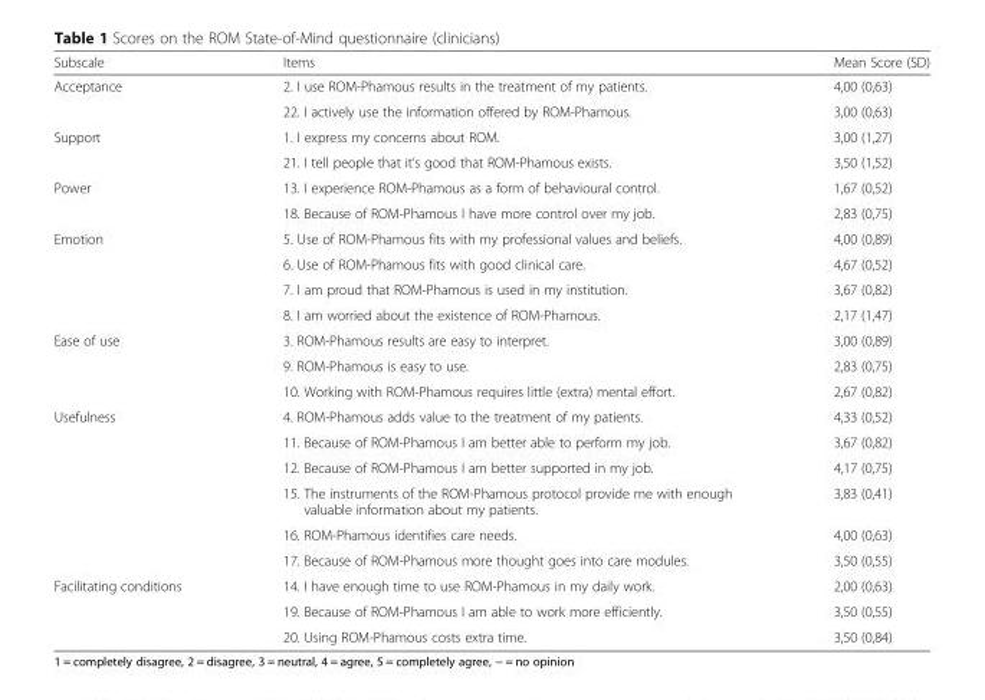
<table><thead><tr><td>Subscale</td><td>Items</td><td>Mean Score (SD)</td></tr></thead><tbody><tr><td rowspan="2">Acceptance</td><td>2. I use ROM-Phamous results in the treatment of my patients.</td><td>4,00 (0,63)</td></tr><tr><td>22. I actively use the information offered by ROM-Phamous.</td><td>3,00 (0,63)</td></tr><tr><td rowspan="2">Support</td><td>1. I express my concerns about ROM.</td><td>3,00 (1,27)</td></tr><tr><td>21. I tell people that it’s good that ROM-Phamous exists.</td><td>3,50 (1,52)</td></tr><tr><td rowspan="2">Power</td><td>13. I experience ROM-Phamous as a form of behavioural control.</td><td>1,67 (0,52)</td></tr><tr><td>18. Because of ROM-Phamous I have more control over my job.</td><td>2,83 (0,75)</td></tr><tr><td rowspan="4">Emotion</td><td>5. Use of ROM-Phamous fits with my professional values and beliefs.</td><td>4,00 (0,89)</td></tr><tr><td>6. Use of ROM-Phamous fits with good clinical care.</td><td>4,67 (0,52)</td></tr><tr><td>7. I am proud that ROM-Phamous is used in my institution.</td><td>3,67 (0,82)</td></tr><tr><td>8. I am worried about the existence of ROM-Phamous.</td><td>2,17 (1,47)</td></tr><tr><td rowspan="3">Ease of use</td><td>3. ROM-Phamous results are easy to interpret.</td><td>3,00 (0,89)</td></tr><tr><td>9. ROM-Phamous is easy to use.</td><td>2,83 (0,75)</td></tr><tr><td>10. Working with ROM-Phamous requires little (extra) mental effort.</td><td>2,67 (0,82)</td></tr><tr><td rowspan="6">Usefulness</td><td>4. ROM-Phamous adds value to the treatment of my patients.</td><td>4,33 (0,52)</td></tr><tr><td>11. Because of ROM-Phamous I am better able to perform my job.</td><td>3,67 (0,82)</td></tr><tr><td>12. Because of ROM-Phamous I am better supported in my job.</td><td>4,17 (0,75)</td></tr><tr><td>15. The instruments of the ROM-Phamous protocol provide me with enough valuable information about my patients.</td><td>3,83 (0,41)</td></tr><tr><td>16. ROM-Phamous identifies care needs.</td><td>4,00 (0,63)</td></tr><tr><td>17. Because of ROM-Phamous more thought goes into care modules.</td><td>3,50 (0,55)</td></tr><tr><td rowspan="3">Facilitating conditions</td><td>14. I have enough time to use ROM-Phamous in my daily work.</td><td>2,00 (0,63)</td></tr><tr><td>19. Because of ROM-Phamous I am able to work more efficiently.</td><td>3,50 (0,55)</td></tr><tr><td>20. Using ROM-Phamous costs extra time.</td><td>3,50 (0,84)</td></tr></tbody></table>